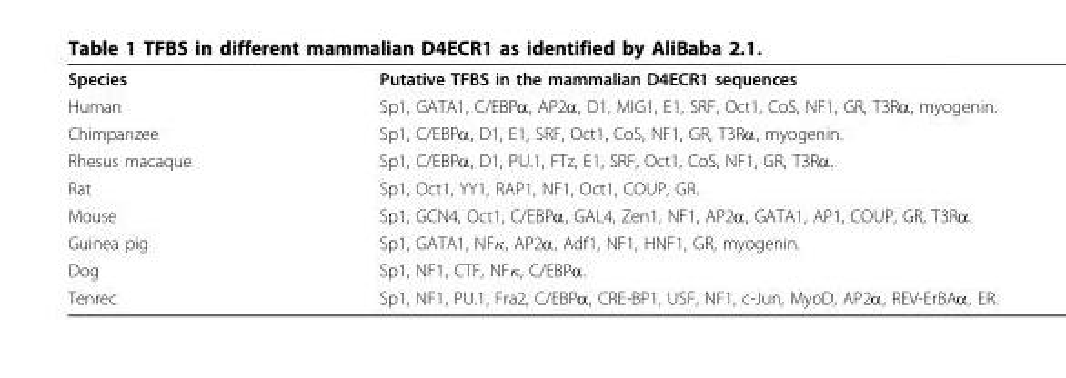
<table><tbody><tr><td>Species</td><td>Putative TFBS in the mammalian D4ECR1 sequences</td></tr><tr><td>Human</td><td>Sp1, GATA1, C/EBPα, AP2α, D1, MIG1, E1, SRF, Oct1, CoS, NF1, GR, T3Rα, myogenin.</td></tr><tr><td>Chimpanzee</td><td>Sp1, C/EBPα, D1, E1, SRF, Oct1, CoS, NF1, GR, T3Rα, myogenin.</td></tr><tr><td>Rhesus macaque</td><td>Sp1, C/EBPα, D1, PU.1, FTz, E1, SRF, Oct1, CoS, NF1, GR, T3Rα.</td></tr><tr><td>Rat</td><td>Sp1, Oct1, YY1, RAP1, NF1, Oct1, COUP, GR.</td></tr><tr><td>Mouse</td><td>Sp1, GCN4, Oct1, C/EBPα, GAL4, Zen1, NF1, AP2α, GATA1, AP1, COUP, GR, T3Rα.</td></tr><tr><td>Guinea pig</td><td>Sp1, GATA1, NFκ, AP2α, Adf1, NF1, HNF1, GR, myogenin.</td></tr><tr><td>Dog</td><td>Sp1, NF1, CTF, NFκ, C/EBPα.</td></tr><tr><td>Tenrec</td><td>Sp1, NF1, PU.1, Fra2, C/EBPα, CRE-BP1, USF, NF1, c-Jun, MyoD, AP2α, REV-ErBAα, ER.</td></tr></tbody></table>